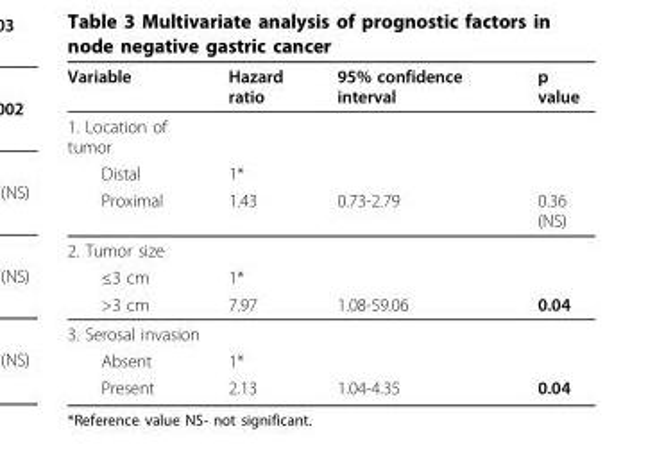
<table><thead><tr><td>Variable</td><td>Hazard ratio</td><td>95% confidence interval</td><td>p value</td></tr></thead><tbody><tr><td colspan="4">1. Location of tumor</td></tr><tr><td>Distal</td><td>1*</td><td></td><td></td></tr><tr><td>Proximal</td><td>1.43</td><td>0.73-2.79</td><td>0.36 (NS)</td></tr><tr><td colspan="4">2. Tumor size</td></tr><tr><td>≤3 cm</td><td>1*</td><td></td><td></td></tr><tr><td>&gt;3 cm</td><td>7.97</td><td>1.08-59.06</td><td>0.04</td></tr><tr><td colspan="4">3. Serosal invasion</td></tr><tr><td>Absent</td><td>1*</td><td></td><td></td></tr><tr><td>Present</td><td>2.13</td><td>1.04-4.35</td><td>0.04</td></tr></tbody></table>